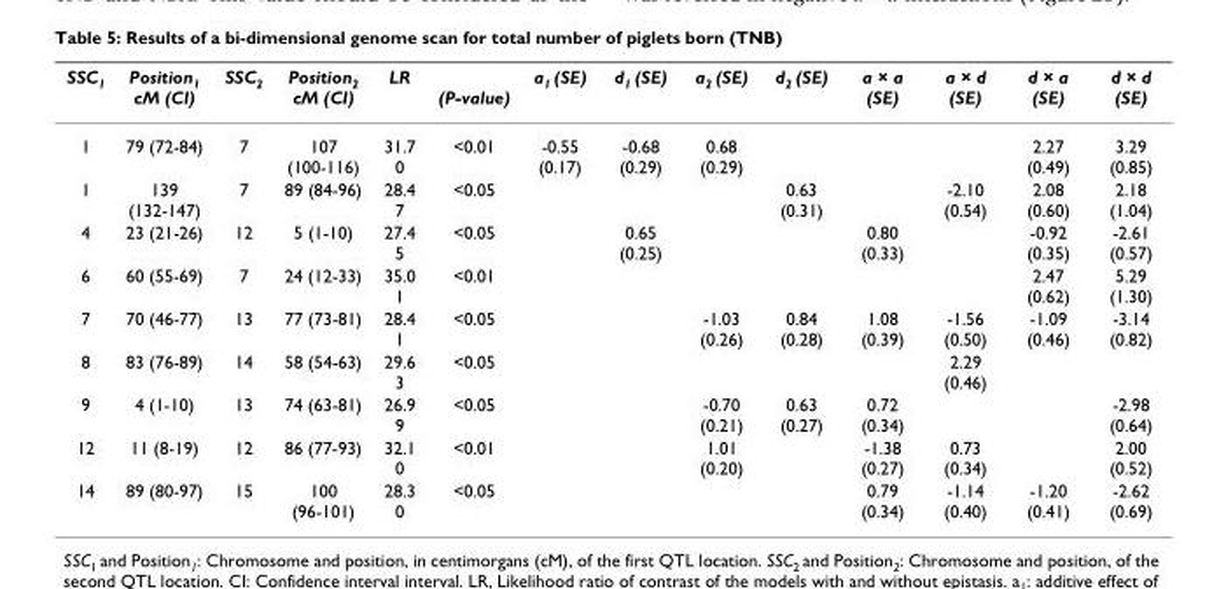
<table><thead><tr><td>SSC<sub>1</sub></td><td>Position<sub>1</sub> cM (CI)</td><td>SSC<sub>2</sub></td><td>Position<sub>2</sub> cM (CI)</td><td>LR</td><td>(P-value)</td><td>a<sub>1</sub> (SE)</td><td>d<sub>1</sub> (SE)</td><td>a<sub>2</sub> (SE)</td><td>d<sub>2</sub> (SE)</td><td>a × a (SE)</td><td>a × d (SE)</td><td>d × a (SE)</td><td>d × d (SE)</td></tr></thead><tbody><tr><td>1</td><td>79 (72-84)</td><td>7</td><td>107 (100-116)</td><td>31.7 0</td><td>&lt;0.01</td><td>-0.55 (0.17)</td><td>-0.68 (0.29)</td><td>0.68 (0.29)</td><td></td><td></td><td></td><td>2.27 (0.49)</td><td>3.29 (0.85)</td></tr><tr><td>1</td><td>139 (132-147)</td><td>7</td><td>89 (84-96)</td><td>28.4 7</td><td>&lt;0.05</td><td></td><td></td><td></td><td>0.63 (0.31)</td><td></td><td>-2.10 (0.54)</td><td>2.08 (0.60)</td><td>2.18 (1.04)</td></tr><tr><td>4</td><td>23 (21-26)</td><td>12</td><td>5 (1-10)</td><td>27.4 5</td><td>&lt;0.05</td><td></td><td>0.65 (0.25)</td><td></td><td></td><td>0.80 (0.33)</td><td></td><td>-0.92 (0.35)</td><td>-2.61 (0.57)</td></tr><tr><td>6</td><td>60 (55-69)</td><td>7</td><td>24 (12-33)</td><td>35.0 1</td><td>&lt;0.01</td><td></td><td></td><td></td><td></td><td></td><td></td><td>2.47 (0.62)</td><td>5.29 (1.30)</td></tr><tr><td>7</td><td>70 (46-77)</td><td>13</td><td>77 (73-81)</td><td>28.4 1</td><td>&lt;0.05</td><td></td><td></td><td>-1.03 (0.26)</td><td>0.84 (0.28)</td><td>1.08 (0.39)</td><td>-1.56 (0.50)</td><td>-1.09 (0.46)</td><td>-3.14 (0.82)</td></tr><tr><td>8</td><td>83 (76-89)</td><td>14</td><td>58 (54-63)</td><td>29.6 3</td><td>&lt;0.05</td><td></td><td></td><td></td><td></td><td></td><td>2.29 (0.46)</td><td></td><td></td></tr><tr><td>9</td><td>4 (1-10)</td><td>13</td><td>74 (63-81)</td><td>26.9 9</td><td>&lt;0.05</td><td></td><td></td><td>-0.70 (0.21)</td><td>0.63 (0.27)</td><td>0.72 (0.34)</td><td></td><td></td><td>-2.98 (0.64)</td></tr><tr><td>12</td><td>11 (8-19)</td><td>12</td><td>86 (77-93)</td><td>32.1 0</td><td>&lt;0.01</td><td></td><td></td><td>1.01 (0.20)</td><td></td><td>-1.38 (0.27)</td><td>0.73 (0.34)</td><td></td><td>2.00 (0.52)</td></tr><tr><td>14</td><td>89 (80-97)</td><td>15</td><td>100 (96-101)</td><td>28.3 0</td><td>&lt;0.05</td><td></td><td></td><td></td><td></td><td>0.79 (0.34)</td><td>-1.14 (0.40)</td><td>-1.20 (0.41)</td><td>-2.62 (0.69)</td></tr></tbody></table>